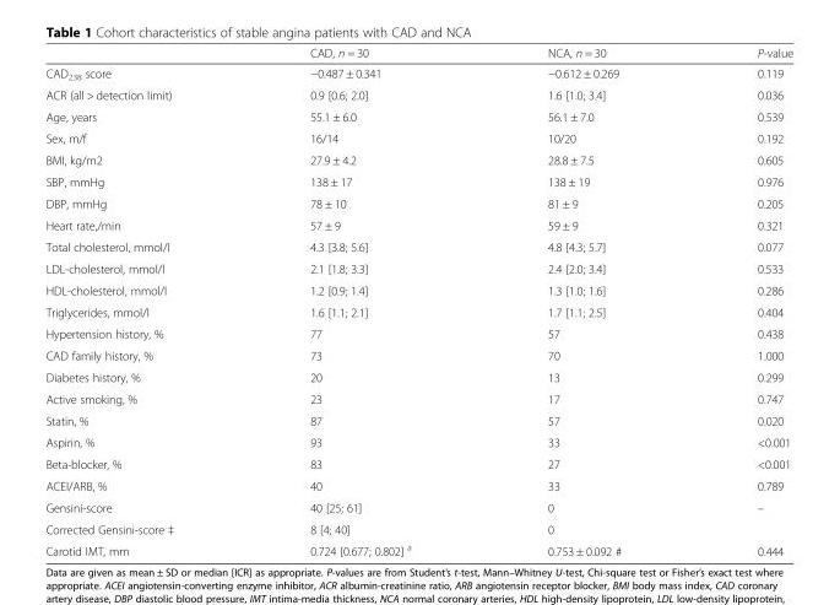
<table><thead><tr><td></td><td>CAD, n = 30</td><td>NCA, n = 30</td><td>P-value</td></tr></thead><tbody><tr><td>CAD<sub>238</sub> score</td><td>−0.487 ± 0.341</td><td>−0.612 ± 0.269</td><td>0.119</td></tr><tr><td>ACR (all &gt; detection limit)</td><td>0.9 [0.6; 2.0]</td><td>1.6 [1.0; 3.4]</td><td>0.036</td></tr><tr><td>Age, years</td><td>55.1 ± 6.0</td><td>56.1 ± 7.0</td><td>0.539</td></tr><tr><td>Sex, m/f</td><td>16/14</td><td>10/20</td><td>0.192</td></tr><tr><td>BMI, kg/m2</td><td>27.9 ± 4.2</td><td>28.8 ± 7.5</td><td>0.605</td></tr><tr><td>SBP, mmHg</td><td>138 ± 17</td><td>138 ± 19</td><td>0.976</td></tr><tr><td>DBP, mmHg</td><td>78 ± 10</td><td>81 ± 9</td><td>0.205</td></tr><tr><td>Heart rate,/min</td><td>57 ± 9</td><td>59 ± 9</td><td>0.321</td></tr><tr><td>Total cholesterol, mmol/l</td><td>4.3 [3.8; 5.6]</td><td>4.8 [4.3; 5.7]</td><td>0.077</td></tr><tr><td>LDL-cholesterol, mmol/l</td><td>2.1 [1.8; 3.3]</td><td>2.4 [2.0; 3.4]</td><td>0.533</td></tr><tr><td>HDL-cholesterol, mmol/l</td><td>1.2 [0.9; 1.4]</td><td>1.3 [1.0; 1.6]</td><td>0.286</td></tr><tr><td>Triglycerides, mmol/l</td><td>1.6 [1.1; 2.1]</td><td>1.7 [1.1; 2.5]</td><td>0.404</td></tr><tr><td>Hypertension history, %</td><td>77</td><td>57</td><td>0.438</td></tr><tr><td>CAD family history, %</td><td>73</td><td>70</td><td>1.000</td></tr><tr><td>Diabetes history, %</td><td>20</td><td>13</td><td>0.299</td></tr><tr><td>Active smoking, %</td><td>23</td><td>17</td><td>0.747</td></tr><tr><td>Statin, %</td><td>87</td><td>57</td><td>0.020</td></tr><tr><td>Aspirin, %</td><td>93</td><td>33</td><td>&lt;0.001</td></tr><tr><td>Beta-blocker, %</td><td>83</td><td>27</td><td>&lt;0.001</td></tr><tr><td>ACEI/ARB, %</td><td>40</td><td>33</td><td>0.789</td></tr><tr><td>Gensini-score</td><td>40 [25; 61]</td><td>0</td><td>–</td></tr><tr><td>Corrected Gensini-score ‡</td><td>8 [4; 40]</td><td>0</td><td></td></tr><tr><td>Carotid IMT, mm</td><td>0.724 [0.677; 0.802] <sup>a</sup></td><td>0.753 ± 0.092 #</td><td>0.444</td></tr></tbody></table>